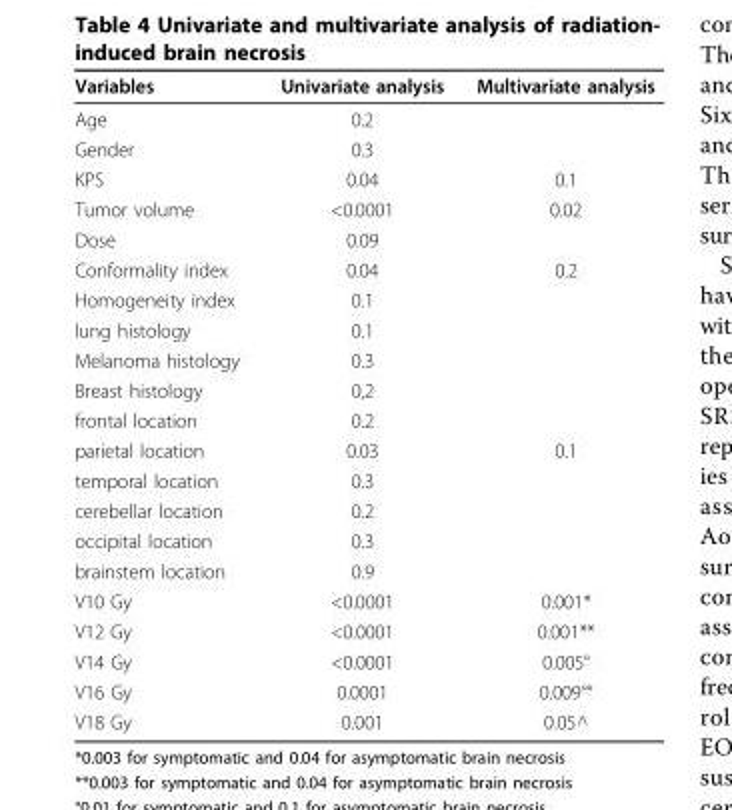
<table><thead><tr><td>Variables</td><td>Univariate analysis</td><td>Multivariate analysis</td></tr></thead><tbody><tr><td>Age</td><td>0.2</td><td></td></tr><tr><td>Gender</td><td>0.3</td><td></td></tr><tr><td>KPS</td><td>0.04</td><td>0.1</td></tr><tr><td>Tumor volume</td><td>&lt;0.0001</td><td>0.02</td></tr><tr><td>Dose</td><td>0.09</td><td></td></tr><tr><td>Conformality index</td><td>0.04</td><td>0.2</td></tr><tr><td>Homogeneity index</td><td>0.1</td><td></td></tr><tr><td>lung histology</td><td>0.1</td><td></td></tr><tr><td>Melanoma histology</td><td>0.3</td><td></td></tr><tr><td>Breast histology</td><td>0,2</td><td></td></tr><tr><td>frontal location</td><td>0.2</td><td></td></tr><tr><td>parietal location</td><td>0.03</td><td>0.1</td></tr><tr><td>temporal location</td><td>0.3</td><td></td></tr><tr><td>cerebellar location</td><td>0.2</td><td></td></tr><tr><td>occipital location</td><td>0.3</td><td></td></tr><tr><td>brainstem location</td><td>0.9</td><td></td></tr><tr><td>V10 Gy</td><td>&lt;0.0001</td><td>0.001*</td></tr><tr><td>V12 Gy</td><td>&lt;0.0001</td><td>0.001**</td></tr><tr><td>V14 Gy</td><td>&lt;0.0001</td><td>0.005°</td></tr><tr><td>V16 Gy</td><td>0.0001</td><td>0.009°°</td></tr><tr><td>V18 Gy</td><td>0.001</td><td>0.05^</td></tr></tbody></table>